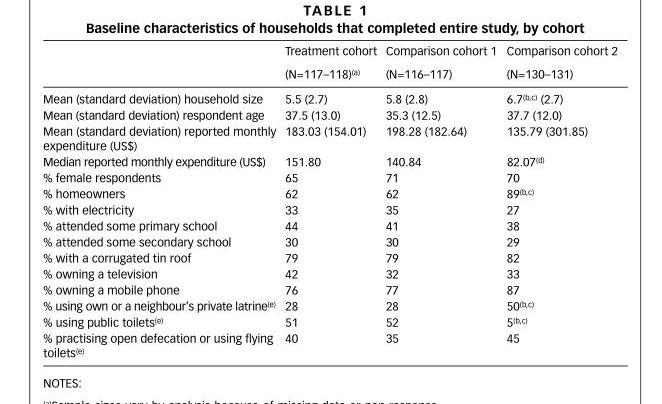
<table><thead><tr><td rowspan="2"></td><td rowspan="2">Treatment cohort (N=117–118)<sup>(a)</sup></td><td rowspan="2">Comparison cohort 1 (N=116–117)</td><td rowspan="2">Comparison cohort 2 (N=130–131)</td></tr><tr></tr></thead><tbody><tr><td>Mean (standard deviation) household size</td><td>5.5 (2.7)</td><td>5.8 (2.8)</td><td>6.7<sup>(b,c)</sup> (2.7)</td></tr><tr><td>Mean (standard deviation) respondent age</td><td>37.5 (13.0)</td><td>35.3 (12.5)</td><td>37.7 (12.0)</td></tr><tr><td>Mean (standard deviation) reported monthly expenditure (US$)</td><td>183.03 (154.01)</td><td>198.28 (182.64)</td><td>135.79 (301.85)</td></tr><tr><td>Median reported monthly expenditure (US$)</td><td>151.80</td><td>140.84</td><td>82.07<sup>(d)</sup></td></tr><tr><td>% female respondents</td><td>65</td><td>71</td><td>70</td></tr><tr><td>% homeowners</td><td>62</td><td>62</td><td>89<sup>(b,c)</sup></td></tr><tr><td>% with electricity</td><td>33</td><td>35</td><td>27</td></tr><tr><td>% attended some primary school</td><td>44</td><td>41</td><td>38</td></tr><tr><td>% attended some secondary school</td><td>30</td><td>30</td><td>29</td></tr><tr><td>% with a corrugated tin roof</td><td>79</td><td>79</td><td>82</td></tr><tr><td>% owning a television</td><td>42</td><td>32</td><td>33</td></tr><tr><td>% owning a mobile phone</td><td>76</td><td>77</td><td>87</td></tr><tr><td>% using own or a neighbour’s private latrine<sup>(e)</sup></td><td>28</td><td>28</td><td>50<sup>(b,c)</sup></td></tr><tr><td>% using public toilets<sup>(e)</sup></td><td>51</td><td>52</td><td>5<sup>(b,c)</sup></td></tr><tr><td>% practising open defecation or using flying toilets<sup>(e)</sup></td><td>40</td><td>35</td><td>45</td></tr></tbody></table>